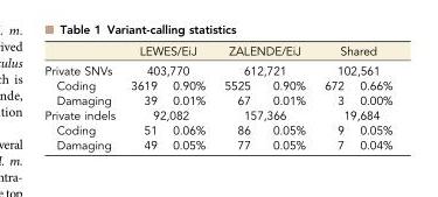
<table><thead><tr><td rowspan="3">Private SNVs Coding</td><td rowspan="2" colspan="2">LEWES/EiJ 403,770</td><td rowspan="2" colspan="2">ZALENDE/EiJ 612,721</td><td rowspan="2" colspan="2">Shared 102,561</td></tr><tr></tr><tr><td>3619</td><td>0.90%</td><td>5525</td><td>0.90%</td><td>672</td><td>0.66%</td></tr></thead><tbody><tr><td>Damaging</td><td>39</td><td>0.01%</td><td>67</td><td>0.01%</td><td>3</td><td>0.00%</td></tr><tr><td>Private indels</td><td colspan="2">92,082</td><td colspan="2">157,366</td><td colspan="2">19,684</td></tr><tr><td>Coding</td><td>51</td><td>0.06%</td><td>86</td><td>0.05%</td><td>9</td><td>0.05%</td></tr><tr><td>Damaging</td><td>49</td><td>0.05%</td><td>77</td><td>0.05%</td><td>7</td><td>0.04%</td></tr></tbody></table>